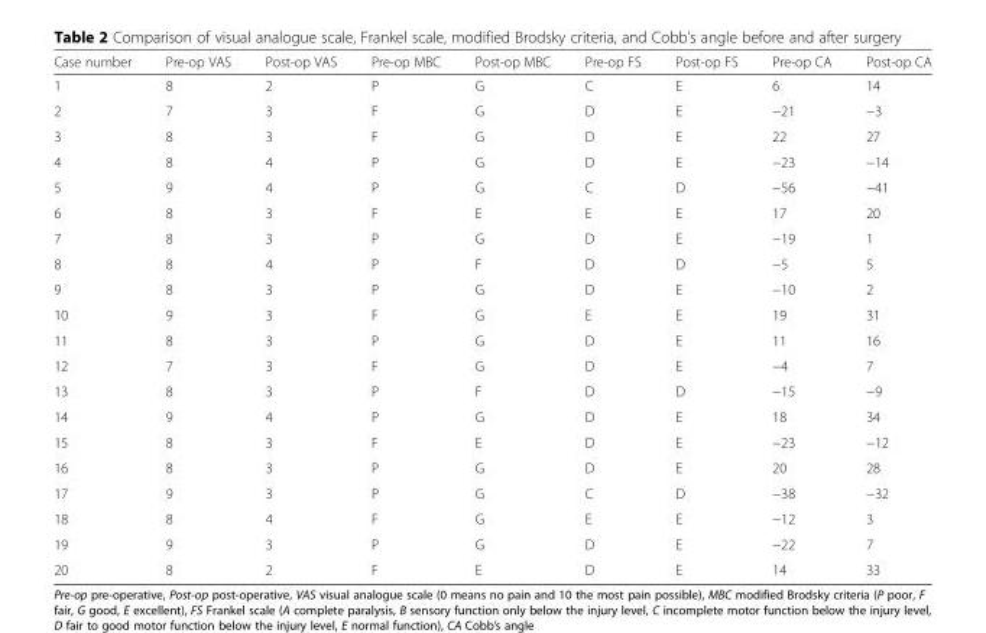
<table><thead><tr><td>Case number</td><td>Pre-op VAS</td><td>Post-op VAS</td><td>Pre-op MBC</td><td>Post-op MBC</td><td>Pre-op FS</td><td>Post-op FS</td><td>Pre-op CA</td><td>Post-op CA</td></tr></thead><tbody><tr><td>1</td><td>8</td><td>2</td><td>P</td><td>G</td><td>C</td><td>E</td><td>6</td><td>14</td></tr><tr><td>2</td><td>7</td><td>3</td><td>F</td><td>G</td><td>D</td><td>E</td><td>−21</td><td>−3</td></tr><tr><td>3</td><td>8</td><td>3</td><td>F</td><td>G</td><td>D</td><td>E</td><td>22</td><td>27</td></tr><tr><td>4</td><td>8</td><td>4</td><td>P</td><td>G</td><td>D</td><td>E</td><td>−23</td><td>−14</td></tr><tr><td>5</td><td>9</td><td>4</td><td>P</td><td>G</td><td>C</td><td>D</td><td>−56</td><td>−41</td></tr><tr><td>6</td><td>8</td><td>3</td><td>F</td><td>E</td><td>E</td><td>E</td><td>17</td><td>20</td></tr><tr><td>7</td><td>8</td><td>3</td><td>P</td><td>G</td><td>D</td><td>E</td><td>−19</td><td>1</td></tr><tr><td>8</td><td>8</td><td>4</td><td>P</td><td>F</td><td>D</td><td>D</td><td>−5</td><td>5</td></tr><tr><td>9</td><td>8</td><td>3</td><td>P</td><td>G</td><td>D</td><td>E</td><td>−10</td><td>2</td></tr><tr><td>10</td><td>9</td><td>3</td><td>F</td><td>G</td><td>E</td><td>E</td><td>19</td><td>31</td></tr><tr><td>11</td><td>8</td><td>3</td><td>P</td><td>G</td><td>D</td><td>E</td><td>11</td><td>16</td></tr><tr><td>12</td><td>7</td><td>3</td><td>F</td><td>G</td><td>D</td><td>E</td><td>−4</td><td>7</td></tr><tr><td>13</td><td>8</td><td>3</td><td>P</td><td>F</td><td>D</td><td>D</td><td>−15</td><td>−9</td></tr><tr><td>14</td><td>9</td><td>4</td><td>P</td><td>G</td><td>D</td><td>E</td><td>18</td><td>34</td></tr><tr><td>15</td><td>8</td><td>3</td><td>F</td><td>E</td><td>D</td><td>E</td><td>−23</td><td>−12</td></tr><tr><td>16</td><td>8</td><td>3</td><td>P</td><td>G</td><td>D</td><td>E</td><td>20</td><td>28</td></tr><tr><td>17</td><td>9</td><td>3</td><td>P</td><td>G</td><td>C</td><td>D</td><td>−38</td><td>−32</td></tr><tr><td>18</td><td>8</td><td>4</td><td>F</td><td>G</td><td>E</td><td>E</td><td>−12</td><td>3</td></tr><tr><td>19</td><td>9</td><td>3</td><td>P</td><td>G</td><td>D</td><td>E</td><td>−22</td><td>7</td></tr><tr><td>20</td><td>8</td><td>2</td><td>F</td><td>E</td><td>D</td><td>E</td><td>14</td><td>33</td></tr></tbody></table>